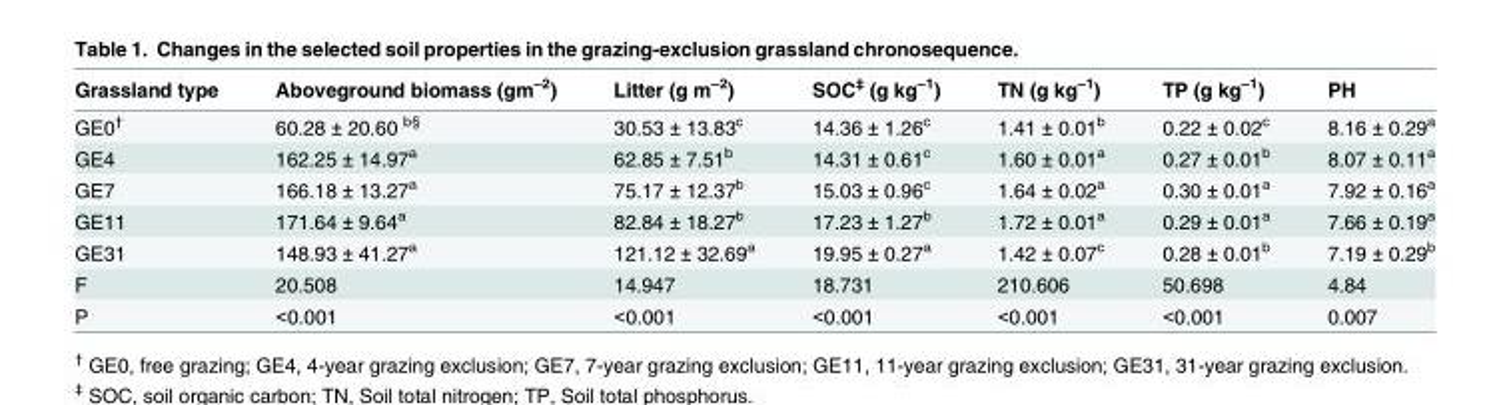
<table><thead><tr><td>Grassland type</td><td>Aboveground biomass (gm<sup>–2</sup>)</td><td>Litter (g m<sup>–2</sup>)</td><td>SOC<sup>‡</sup> (g kg<sup>–1</sup>)</td><td>TN (g kg<sup>–1</sup>)</td><td>TP (g kg<sup>–1</sup>)</td><td>PH</td></tr></thead><tbody><tr><td>GE0<sup>†</sup></td><td>60.28 ± 20.60 <sup>b§</sup></td><td>30.53 ± 13.83<sup>c</sup></td><td>14.36 ± 1.26<sup>c</sup></td><td>1.41 ± 0.01<sup>b</sup></td><td>0.22 ± 0.02<sup>c</sup></td><td>8.16 ± 0.29<sup>a</sup></td></tr><tr><td>GE4</td><td>162.25 ± 14.97<sup>a</sup></td><td>62.85 ± 7.51<sup>b</sup></td><td>14.31 ± 0.61<sup>c</sup></td><td>1.60 ± 0.01<sup>a</sup></td><td>0.27 ± 0.01<sup>b</sup></td><td>8.07 ± 0.11<sup>a</sup></td></tr><tr><td>GE7</td><td>166.18 ± 13.27<sup>a</sup></td><td>75.17 ± 12.37<sup>b</sup></td><td>15.03 ± 0.96<sup>c</sup></td><td>1.64 ± 0.02<sup>a</sup></td><td>0.30 ± 0.01<sup>a</sup></td><td>7.92 ± 0.16<sup>a</sup></td></tr><tr><td>GE11</td><td>171.64 ± 9.64<sup>a</sup></td><td>82.84 ± 18.27<sup>b</sup></td><td>17.23 ± 1.27<sup>b</sup></td><td>1.72 ± 0.01<sup>a</sup></td><td>0.29 ± 0.01<sup>a</sup></td><td>7.66 ± 0.19<sup>a</sup></td></tr><tr><td>GE31</td><td>148.93 ± 41.27<sup>a</sup></td><td>121.12 ± 32.69<sup>a</sup></td><td>19.95 ± 0.27<sup>a</sup></td><td>1.42 ± 0.07<sup>c</sup></td><td>0.28 ± 0.01<sup>b</sup></td><td>7.19 ± 0.29<sup>b</sup></td></tr><tr><td>F</td><td>20.508</td><td>14.947</td><td>18.731</td><td>210.606</td><td>50.698</td><td>4.84</td></tr><tr><td>P</td><td>&lt;0.001</td><td>&lt;0.001</td><td>&lt;0.001</td><td>&lt;0.001</td><td>&lt;0.001</td><td>0.007</td></tr></tbody></table>